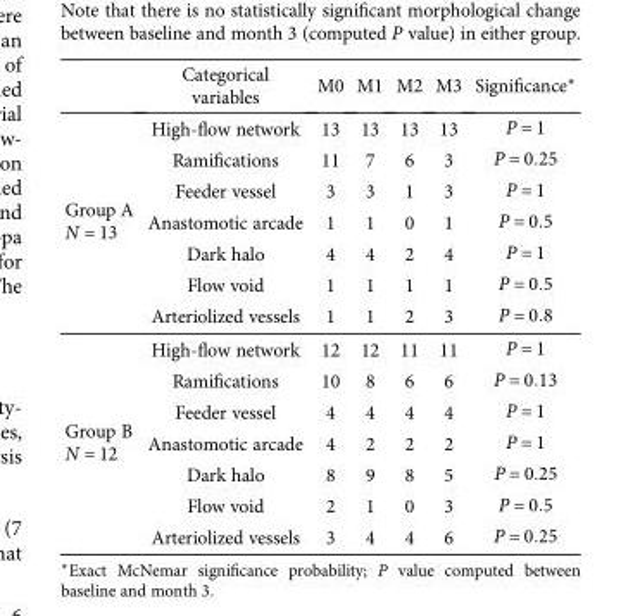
<table><thead><tr><td></td><td>Categorical variables</td><td>M0</td><td>M1</td><td>M2</td><td>M3</td><td>Significance∗</td></tr></thead><tbody><tr><td rowspan="7">Group A N = 13</td><td>High-flow network</td><td>13</td><td>13</td><td>13</td><td>13</td><td>P = 1</td></tr><tr><td>Ramifications</td><td>11</td><td>7</td><td>6</td><td>3</td><td>P = 0 25</td></tr><tr><td>Feeder vessel</td><td>3</td><td>3</td><td>1</td><td>3</td><td>P = 1</td></tr><tr><td>Anastomotic arcade</td><td>1</td><td>1</td><td>0</td><td>1</td><td>P = 0 5</td></tr><tr><td>Dark halo</td><td>4</td><td>4</td><td>2</td><td>4</td><td>P = 1</td></tr><tr><td>Flow void</td><td>1</td><td>1</td><td>1</td><td>1</td><td>P = 0 5</td></tr><tr><td>Arteriolized vessels</td><td>1</td><td>1</td><td>2</td><td>3</td><td>P = 0 8</td></tr><tr><td rowspan="7">Group B N = 12</td><td>High-flow network</td><td>12</td><td>12</td><td>11</td><td>11</td><td>P = 1</td></tr><tr><td>Ramifications</td><td>10</td><td>8</td><td>6</td><td>6</td><td>P = 0 13</td></tr><tr><td>Feeder vessel</td><td>4</td><td>4</td><td>4</td><td>4</td><td>P = 1</td></tr><tr><td>Anastomotic arcade</td><td>4</td><td>2</td><td>2</td><td>2</td><td>P = 1</td></tr><tr><td>Dark halo</td><td>8</td><td>9</td><td>8</td><td>5</td><td>P = 0 25</td></tr><tr><td>Flow void</td><td>2</td><td>1</td><td>0</td><td>3</td><td>P = 0 5</td></tr><tr><td>Arteriolized vessels</td><td>3</td><td>4</td><td>4</td><td>6</td><td>P = 0 25</td></tr></tbody></table>